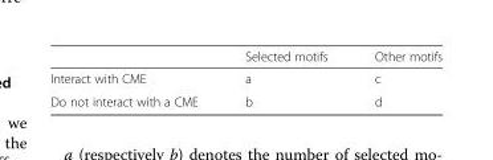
<table><thead><tr><td></td><td>Selected motifs</td><td>Other motifs</td></tr></thead><tbody><tr><td>Interact with CME</td><td>a</td><td>c</td></tr><tr><td>Do not interact with a CME</td><td>b</td><td>d</td></tr></tbody></table>